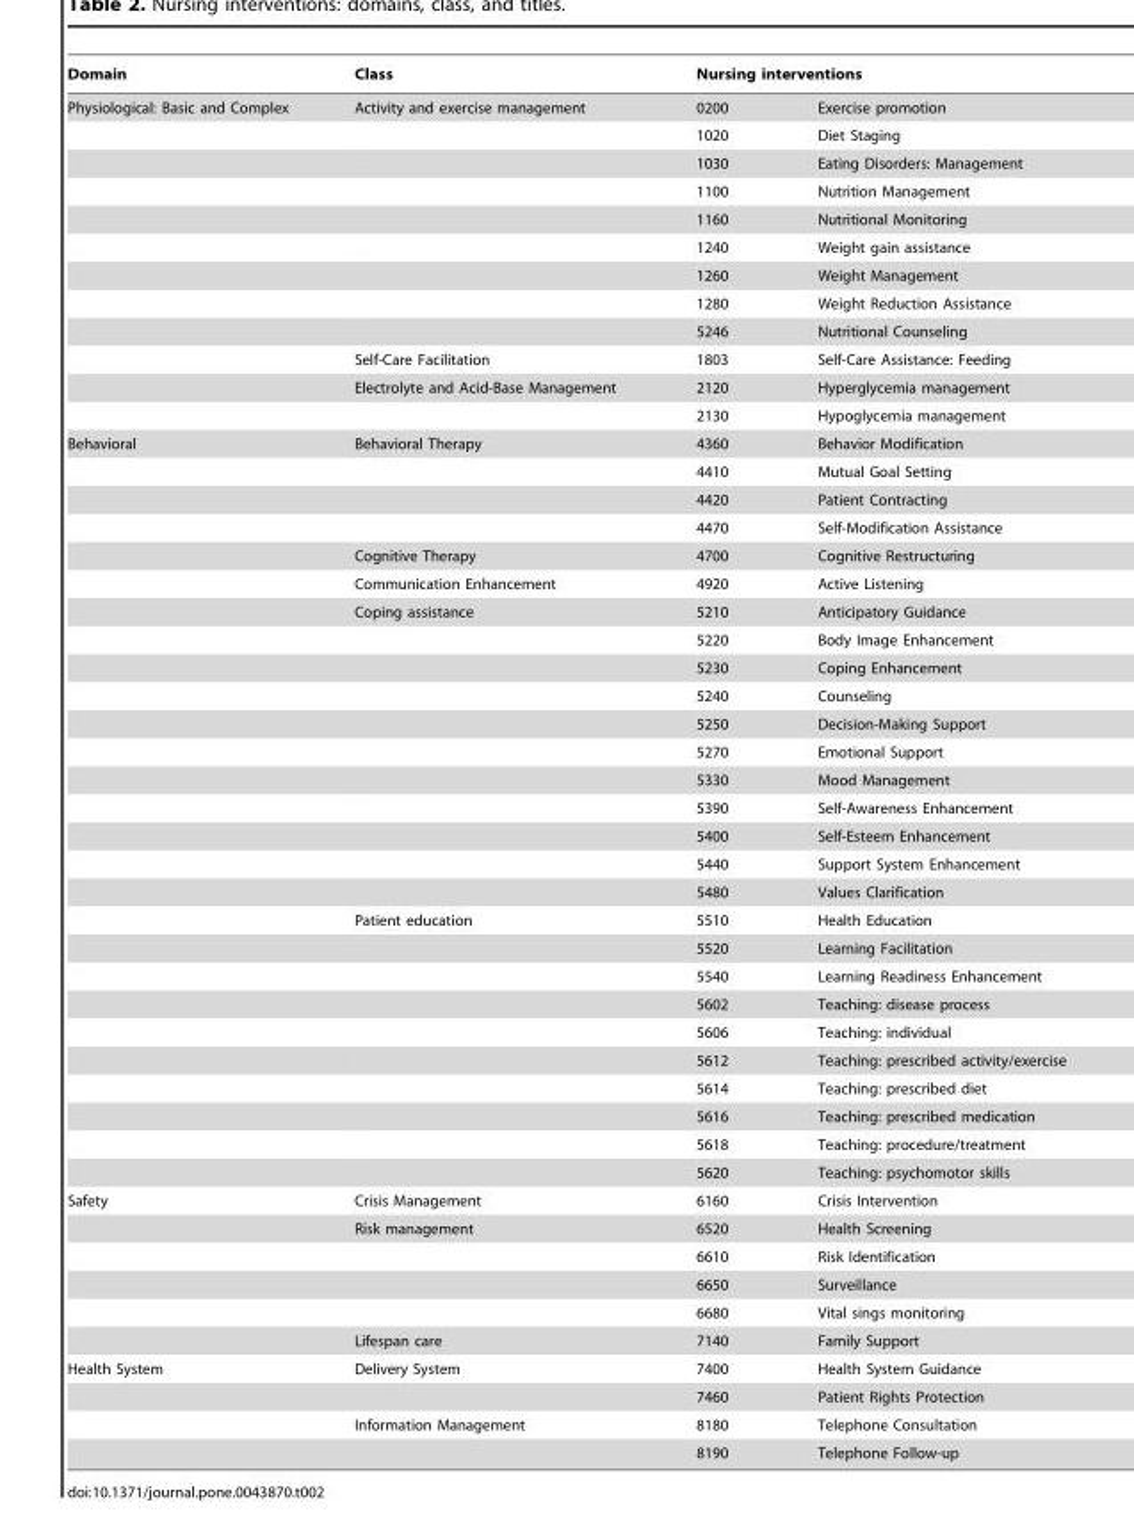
<table><thead><tr><td rowspan="2">Domain Physiological: Basic and Complex</td><td rowspan="2">Class Activity and exercise management</td><td colspan="2">Nursing interventions</td></tr><tr><td>0200</td><td>Exercise promotion</td></tr></thead><tbody><tr><td></td><td></td><td>1020</td><td>Diet Staging</td></tr><tr><td></td><td></td><td>1030</td><td>Eating Disorders: Management</td></tr><tr><td></td><td></td><td>1100</td><td>Nutrition Management</td></tr><tr><td></td><td></td><td>1160</td><td>Nutritional Monitoring</td></tr><tr><td></td><td></td><td>1240</td><td>Weight gain assistance</td></tr><tr><td></td><td></td><td>1260</td><td>Weight Management</td></tr><tr><td></td><td></td><td>1280</td><td>Weight Reduction Assistance</td></tr><tr><td></td><td></td><td>5246</td><td>Nutritional Counseling</td></tr><tr><td></td><td>Self-Care Facilitation</td><td>1803</td><td>Self-Care Assistance: Feeding</td></tr><tr><td></td><td>Electrolyte and Acid-Base Management</td><td>2120</td><td>Hyperglycemia management</td></tr><tr><td></td><td></td><td>2130</td><td>Hypoglycemia management</td></tr><tr><td rowspan="27">Behavioral</td><td>Behavioral Therapy</td><td>4360</td><td>Behavior Modification</td></tr><tr><td></td><td>4410</td><td>Mutual Goal Setting</td></tr><tr><td></td><td>4420</td><td>Patient Contracting</td></tr><tr><td></td><td>4470</td><td>Self-Modification Assistance</td></tr><tr><td>Cognitive Therapy</td><td>4700</td><td>Cognitive Restructuring</td></tr><tr><td>Communication Enhancement</td><td>4920</td><td>Active Listening</td></tr><tr><td>Coping assistance</td><td>5210</td><td>Anticipatory Guidance</td></tr><tr><td></td><td>5220</td><td>Body Image Enhancement</td></tr><tr><td></td><td>5230</td><td>Coping Enhancement</td></tr><tr><td></td><td>5240</td><td>Counseling</td></tr><tr><td></td><td>5250</td><td>Decision-Making Support</td></tr><tr><td></td><td>5270</td><td>Emotional Support</td></tr><tr><td></td><td>5330</td><td>Mood Management</td></tr><tr><td></td><td>5390</td><td>Self-Awareness Enhancement</td></tr><tr><td></td><td>5400</td><td>Self-Esteem Enhancement</td></tr><tr><td></td><td>5440</td><td>Support System Enhancement</td></tr><tr><td></td><td>5480</td><td>Values Clarification</td></tr><tr><td>Patient education</td><td>5510</td><td>Health Education</td></tr><tr><td></td><td>5520</td><td>Learning Facilitation</td></tr><tr><td></td><td>5540</td><td>Learning Readiness Enhancement</td></tr><tr><td></td><td>5602</td><td>Teaching: disease process</td></tr><tr><td></td><td>5606</td><td>Teaching: individual</td></tr><tr><td></td><td>5612</td><td>Teaching: prescribed activity/exercise</td></tr><tr><td></td><td>5614</td><td>Teaching: prescribed diet</td></tr><tr><td></td><td>5616</td><td>Teaching: prescribed medication</td></tr><tr><td></td><td>5618</td><td>Teaching: procedure/treatment</td></tr><tr><td></td><td>5620</td><td>Teaching: psychomotor skills</td></tr><tr><td rowspan="6">Safety</td><td>Crisis Management</td><td>6160</td><td>Crisis Intervention</td></tr><tr><td>Risk management</td><td>6520</td><td>Health Screening</td></tr><tr><td></td><td>6610</td><td>Risk Identification</td></tr><tr><td></td><td>6650</td><td>Surveillance</td></tr><tr><td></td><td>6680</td><td>Vital sings monitoring</td></tr><tr><td>Lifespan care</td><td>7140</td><td>Family Support</td></tr><tr><td rowspan="4">Health System</td><td>Delivery System</td><td>7400</td><td>Health System Guidance</td></tr><tr><td></td><td>7460</td><td>Patient Rights Protection</td></tr><tr><td>Information Management</td><td>8180</td><td>Telephone Consultation</td></tr><tr><td></td><td>8190</td><td>Telephone Follow-up</td></tr></tbody></table>